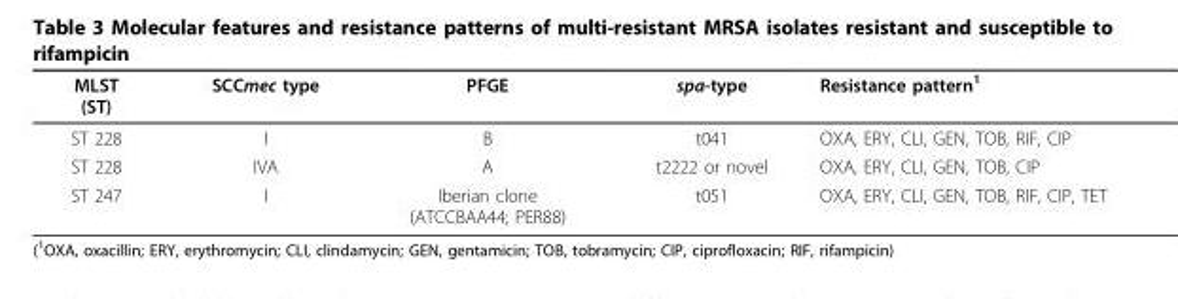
<table><thead><tr><td>MLST (ST)</td><td>SCCmec type</td><td>PFGE</td><td>spa-type</td><td>Resistance pattern<sup>1</sup></td></tr></thead><tbody><tr><td>ST 228</td><td>I</td><td>B</td><td>t041</td><td>OXA, ERY, CLI, GEN, TOB, RIF, CIP</td></tr><tr><td>ST 228</td><td>IVA</td><td>A</td><td>t2222 or novel</td><td>OXA, ERY, CLI, GEN, TOB, CIP</td></tr><tr><td>ST 247</td><td>I</td><td>Iberian clone (ATCCBAA44; PER88)</td><td>t051</td><td>OXA, ERY, CLI, GEN, TOB, RIF, CIP, TET</td></tr></tbody></table>